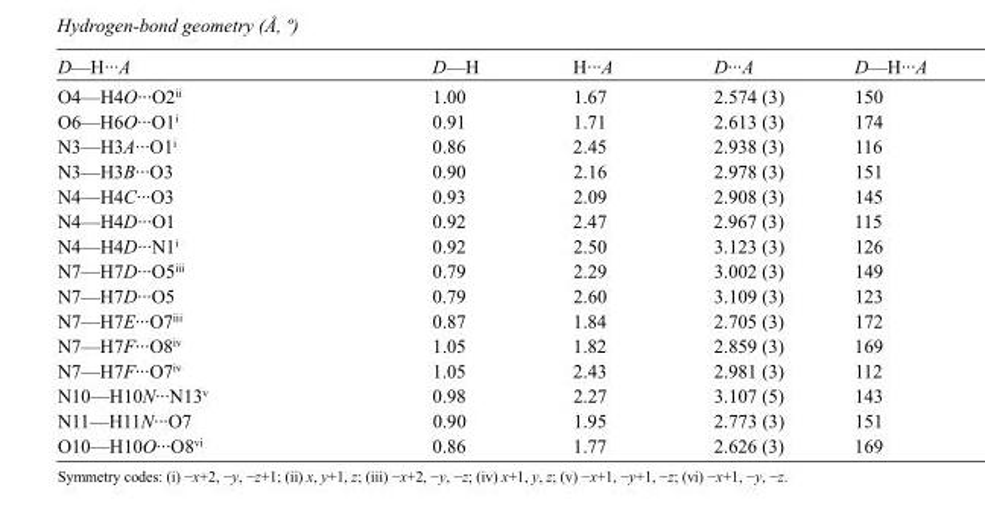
<table><tbody><tr><td>D—H···A</td><td>D—H</td><td>H···A</td><td>D···A</td><td>D—H···A</td></tr><tr><td>O4—H4O···O2<sup>ii</sup></td><td>1.00</td><td>1.67</td><td>2.574 (3)</td><td>150</td></tr><tr><td>O6—H6O···O1<sup>i</sup></td><td>0.91</td><td>1.71</td><td>2.613 (3)</td><td>174</td></tr><tr><td>N3—H3A···O1<sup>i</sup></td><td>0.86</td><td>2.45</td><td>2.938 (3)</td><td>116</td></tr><tr><td>N3—H3B···O3</td><td>0.90</td><td>2.16</td><td>2.978 (3)</td><td>151</td></tr><tr><td>N4—H4C···O3</td><td>0.93</td><td>2.09</td><td>2.908 (3)</td><td>145</td></tr><tr><td>N4—H4D···O1</td><td>0.92</td><td>2.47</td><td>2.967 (3)</td><td>115</td></tr><tr><td>N4—H4D···N1<sup>i</sup></td><td>0.92</td><td>2.50</td><td>3.123 (3)</td><td>126</td></tr><tr><td>N7—H7D···O5<sup>iii</sup></td><td>0.79</td><td>2.29</td><td>3.002 (3)</td><td>149</td></tr><tr><td>N7—H7D···O5</td><td>0.79</td><td>2.60</td><td>3.109 (3)</td><td>123</td></tr><tr><td>N7—H7E···O7<sup>iii</sup></td><td>0.87</td><td>1.84</td><td>2.705 (3)</td><td>172</td></tr><tr><td>N7—H7F···O8<sup>iv</sup></td><td>1.05</td><td>1.82</td><td>2.859 (3)</td><td>169</td></tr><tr><td>N7—H7F···O7<sup>iv</sup></td><td>1.05</td><td>2.43</td><td>2.981 (3)</td><td>112</td></tr><tr><td>N10—H10N···N13<sup>v</sup></td><td>0.98</td><td>2.27</td><td>3.107 (5)</td><td>143</td></tr><tr><td>N11—H11N···O7</td><td>0.90</td><td>1.95</td><td>2.773 (3)</td><td>151</td></tr><tr><td>O10—H10O···O8<sup>vi</sup></td><td>0.86</td><td>1.77</td><td>2.626 (3)</td><td>169</td></tr></tbody></table>